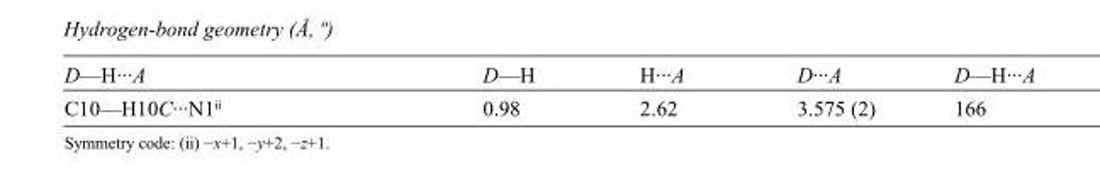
<table><tbody><tr><td>D—H···A</td><td>D—H</td><td>H···A</td><td>D···A</td><td>D—H···A</td></tr><tr><td>C10—H10C···N1<sup>ii</sup></td><td>0.98</td><td>2.62</td><td>3.575 (2)</td><td>166</td></tr></tbody></table>